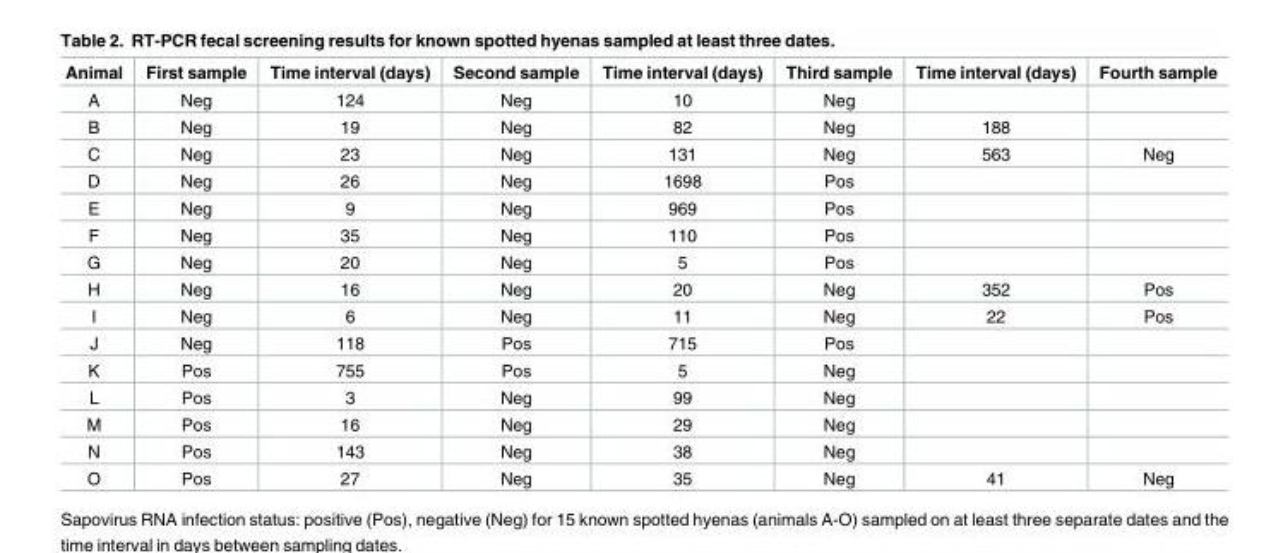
<table><thead><tr><td>Animal</td><td>First sample</td><td>Time interval (days)</td><td>Second sample</td><td>Time interval (days)</td><td>Third sample</td><td>Time interval (days)</td><td>Fourth sample</td></tr></thead><tbody><tr><td>A</td><td>Neg</td><td>124</td><td>Neg</td><td>10</td><td>Neg</td><td></td><td></td></tr><tr><td>B</td><td>Neg</td><td>19</td><td>Neg</td><td>82</td><td>Neg</td><td>188</td><td></td></tr><tr><td>C</td><td>Neg</td><td>23</td><td>Neg</td><td>131</td><td>Neg</td><td>563</td><td>Neg</td></tr><tr><td>D</td><td>Neg</td><td>26</td><td>Neg</td><td>1698</td><td>Pos</td><td></td><td></td></tr><tr><td>E</td><td>Neg</td><td>9</td><td>Neg</td><td>969</td><td>Pos</td><td></td><td></td></tr><tr><td>F</td><td>Neg</td><td>35</td><td>Neg</td><td>110</td><td>Pos</td><td></td><td></td></tr><tr><td>G</td><td>Neg</td><td>20</td><td>Neg</td><td>5</td><td>Pos</td><td></td><td></td></tr><tr><td>H</td><td>Neg</td><td>16</td><td>Neg</td><td>20</td><td>Neg</td><td>352</td><td>Pos</td></tr><tr><td>I</td><td>Neg</td><td>6</td><td>Neg</td><td>11</td><td>Neg</td><td>22</td><td>Pos</td></tr><tr><td>J</td><td>Neg</td><td>118</td><td>Pos</td><td>715</td><td>Pos</td><td></td><td></td></tr><tr><td>K</td><td>Pos</td><td>755</td><td>Pos</td><td>5</td><td>Neg</td><td></td><td></td></tr><tr><td>L</td><td>Pos</td><td>3</td><td>Neg</td><td>99</td><td>Neg</td><td></td><td></td></tr><tr><td>M</td><td>Pos</td><td>16</td><td>Neg</td><td>29</td><td>Neg</td><td></td><td></td></tr><tr><td>N</td><td>Pos</td><td>143</td><td>Neg</td><td>38</td><td>Neg</td><td></td><td></td></tr><tr><td>O</td><td>Pos</td><td>27</td><td>Neg</td><td>35</td><td>Neg</td><td>41</td><td>Neg</td></tr></tbody></table>